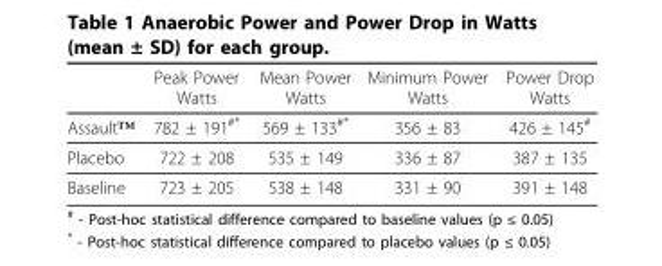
<table><thead><tr><td></td><td>Peak Power Watts</td><td>Mean Power Watts</td><td>Minimum Power Watts</td><td>Power Drop Watts</td></tr></thead><tbody><tr><td>Assault™</td><td>782 ± 191<sup>#*</sup></td><td>569 ± 133<sup>#*</sup></td><td>356 ± 83</td><td>426 ± 145<sup>#</sup></td></tr><tr><td>Placebo</td><td>722 ± 208</td><td>535 ± 149</td><td>336 ± 87</td><td>387 ± 135</td></tr><tr><td>Baseline</td><td>723 ± 205</td><td>538 ± 148</td><td>331 ± 90</td><td>391 ± 148</td></tr></tbody></table>